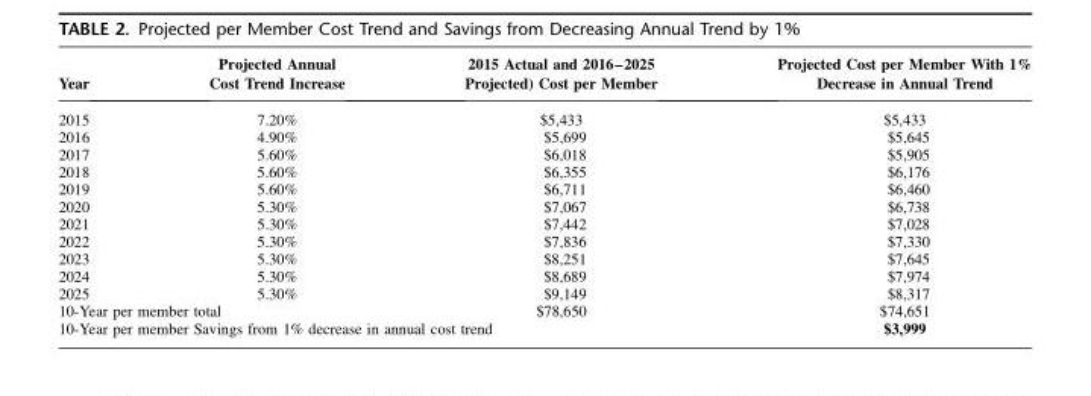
<table><thead><tr><td>Year</td><td>Projected Annual Cost Trend Increase</td><td>2015 Actual and 2016–2025 Projected) Cost per Member</td><td>Projected Cost per Member With 1% Decrease in Annual Trend</td></tr></thead><tbody><tr><td>2015</td><td>7.20%</td><td>$5,433</td><td>$5,433</td></tr><tr><td>2016</td><td>4.90%</td><td>$5,699</td><td>$5,645</td></tr><tr><td>2017</td><td>5.60%</td><td>$6,018</td><td>$5,905</td></tr><tr><td>2018</td><td>5.60%</td><td>$6,355</td><td>$6,176</td></tr><tr><td>2019</td><td>5.60%</td><td>$6,711</td><td>$6,460</td></tr><tr><td>2020</td><td>5.30%</td><td>$7,067</td><td>$6,738</td></tr><tr><td>2021</td><td>5.30%</td><td>$7,442</td><td>$7,028</td></tr><tr><td>2022</td><td>5.30%</td><td>$7,836</td><td>$7,330</td></tr><tr><td>2023</td><td>5.30%</td><td>$8,251</td><td>$7,645</td></tr><tr><td>2024</td><td>5.30%</td><td>$8,689</td><td>$7,974</td></tr><tr><td>2025</td><td>5.30%</td><td>$9,149</td><td>$8,317</td></tr><tr><td colspan="2">10-Year per member total</td><td>$78,650</td><td>$74,651</td></tr><tr><td colspan="3">10-Year per member Savings from 1% decrease in annual cost trend</td><td>$3,999</td></tr></tbody></table>